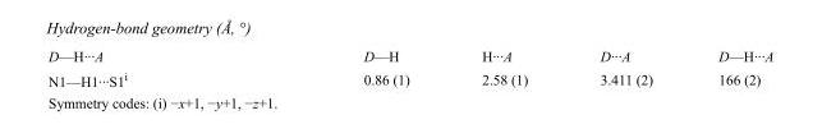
<table><tbody><tr><td>D—H···A</td><td>D—H</td><td>H···A</td><td>D···A</td><td>D—H···A</td></tr><tr><td>N1—H1···S1<sup>i</sup></td><td>0.86 (1)</td><td>2.58 (1)</td><td>3.411 (2)</td><td>166 (2)</td></tr></tbody></table>